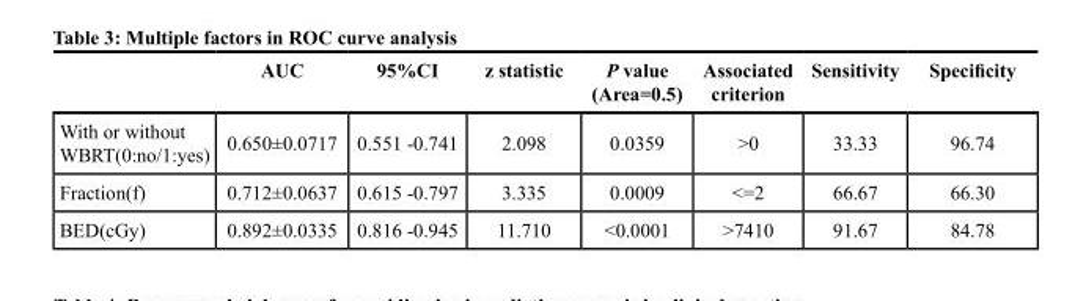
<table><thead><tr><td></td><td>AUC</td><td>95%CI</td><td>z statistic</td><td>P value (Area=0.5)</td><td>Associated criterion</td><td>Sensitivity</td><td>Specificity</td></tr></thead><tbody><tr><td>With or without WBRT(0:no/1:yes)</td><td>0.650±0.0717</td><td>0.551 -0.741</td><td>2.098</td><td>0.0359</td><td>&gt;0</td><td>33.33</td><td>96.74</td></tr><tr><td>Fraction(f)</td><td>0.712±0.0637</td><td>0.615 -0.797</td><td>3.335</td><td>0.0009</td><td>&lt;=2</td><td>66.67</td><td>66.30</td></tr><tr><td>BED(cGy)</td><td>0.892±0.0335</td><td>0.816 -0.945</td><td>11.710</td><td>&lt;0.0001</td><td>&gt;7410</td><td>91.67</td><td>84.78</td></tr></tbody></table>